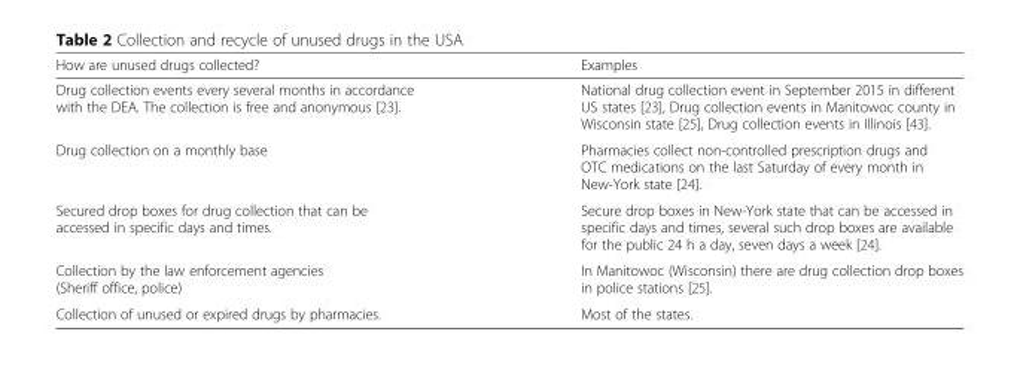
<table><thead><tr><td>How are unused drugs collected?</td><td>Examples</td></tr></thead><tbody><tr><td>Drug collection events every several months in accordance with the DEA. The collection is free and anonymous [23].</td><td>National drug collection event in September 2015 in different US states [23], Drug collection events in Manitowoc county in Wisconsin state [25], Drug collection events in Illinois [43].</td></tr><tr><td>Drug collection on a monthly base</td><td>Pharmacies collect non-controlled prescription drugs and OTC medications on the last Saturday of every month in New-York state [24].</td></tr><tr><td>Secured drop boxes for drug collection that can be accessed in specific days and times.</td><td>Secure drop boxes in New-York state that can be accessed in specific days and times, several such drop boxes are available for the public 24 h a day, seven days a week [24].</td></tr><tr><td>Collection by the law enforcement agencies (Sheriff office, police)</td><td>In Manitowoc (Wisconsin) there are drug collection drop boxes in police stations [25].</td></tr><tr><td>Collection of unused or expired drugs by pharmacies.</td><td>Most of the states.</td></tr></tbody></table>